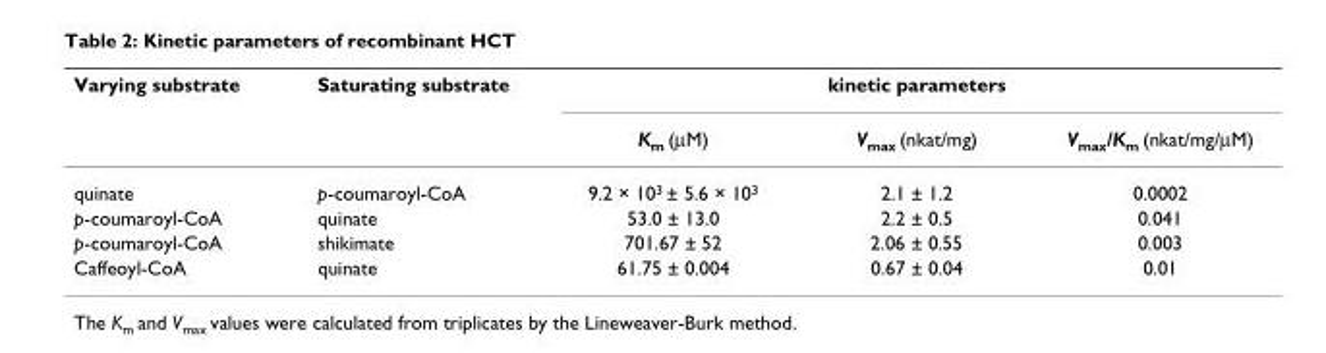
<table><thead><tr><td rowspan="2">Varying substrate</td><td rowspan="2">Saturating substrate</td><td colspan="3">kinetic parameters</td></tr><tr><td>Km (μM)</td><td>Vmax (nkat/mg)</td><td>Vmax/Km (nkat/mg/μM)</td></tr></thead><tbody><tr><td>quinate</td><td>p-coumaroyl-CoA</td><td>9.2 × 103 ± 5.6 × 103</td><td>2.1 ± 1.2</td><td>0.0002</td></tr><tr><td>p-coumaroyl-CoA</td><td>quinate</td><td>53.0 ± 13.0</td><td>2.2 ± 0.5</td><td>0.041</td></tr><tr><td>p-coumaroyl-CoA</td><td>shikimate</td><td>701.67 ± 52</td><td>2.06 ± 0.55</td><td>0.003</td></tr><tr><td>Caffeoyl-CoA</td><td>quinate</td><td>61.75 ± 0.004</td><td>0.67 ± 0.04</td><td>0.01</td></tr></tbody></table>